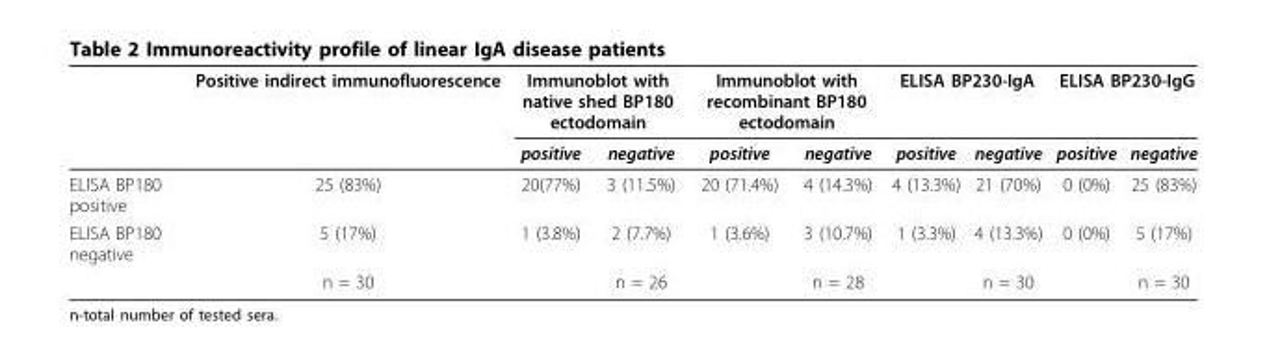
<table><thead><tr><td rowspan="2"></td><td rowspan="2">Positive indirect immunofluorescence</td><td colspan="2">Immunoblot with native shed BP180 ectodomain</td><td colspan="2">Immunoblot with recombinant BP180 ectodomain</td><td colspan="2">ELISA BP230-IgA</td><td colspan="2">ELISA BP230-IgG</td></tr><tr><td>positive</td><td>negative</td><td>positive</td><td>negative</td><td>positive</td><td>negative</td><td>positive</td><td>negative</td></tr></thead><tbody><tr><td>ELISA BP180 positive</td><td>25 (83%)</td><td>20(77%)</td><td>3 (11.5%)</td><td>20 (71.4%)</td><td>4 (14.3%)</td><td>4 (13.3%)</td><td>21 (70%)</td><td>0 (0%)</td><td>25 (83%)</td></tr><tr><td rowspan="2">ELISA BP180 negative</td><td>5 (17%)</td><td>1 (3.8%)</td><td>2 (7.7%)</td><td>1 (3.6%)</td><td>3 (10.7%)</td><td>1 (3.3%)</td><td>4 (13.3%)</td><td>0 (0%)</td><td>5 (17%)</td></tr><tr><td>n = 30</td><td></td><td>n = 26</td><td></td><td>n = 28</td><td></td><td>n = 30</td><td></td><td>n = 30</td></tr></tbody></table>